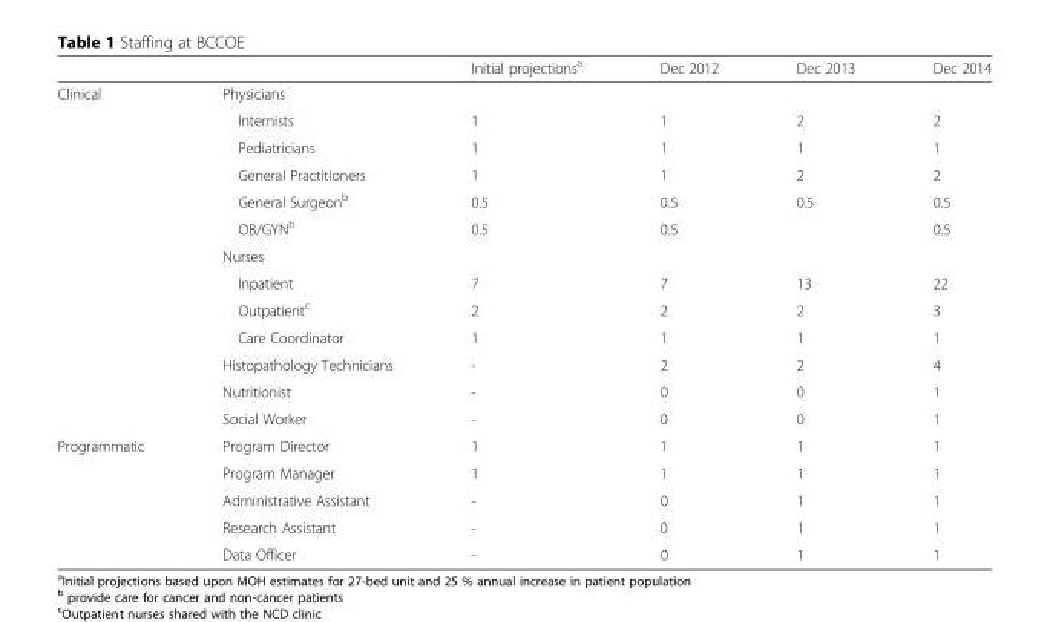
<table><thead><tr><td></td><td></td><td>Initial projections<sup>a</sup></td><td>Dec 2012</td><td>Dec 2013</td><td>Dec 2014</td></tr></thead><tbody><tr><td rowspan="13">Clinical</td><td>Physicians</td><td></td><td></td><td></td><td></td></tr><tr><td>Internists</td><td>1</td><td>1</td><td>2</td><td>2</td></tr><tr><td>Pediatricians</td><td>1</td><td>1</td><td>1</td><td>1</td></tr><tr><td>General Practitioners</td><td>1</td><td>1</td><td>2</td><td>2</td></tr><tr><td>General Surgeon<sup>b</sup></td><td>0.5</td><td>0.5</td><td>0.5</td><td>0.5</td></tr><tr><td>OB/GYN<sup>b</sup></td><td>0.5</td><td>0.5</td><td></td><td>0.5</td></tr><tr><td>Nurses</td><td></td><td></td><td></td><td></td></tr><tr><td>Inpatient</td><td>7</td><td>7</td><td>13</td><td>22</td></tr><tr><td>Outpatient<sup>c</sup></td><td>2</td><td>2</td><td>2</td><td>3</td></tr><tr><td>Care Coordinator</td><td>1</td><td>1</td><td>1</td><td>1</td></tr><tr><td>Histopathology Technicians</td><td>-</td><td>2</td><td>2</td><td>4</td></tr><tr><td>Nutritionist</td><td>-</td><td>0</td><td>0</td><td>1</td></tr><tr><td>Social Worker</td><td>-</td><td>0</td><td>0</td><td>1</td></tr><tr><td rowspan="5">Programmatic</td><td>Program Director</td><td>1</td><td>1</td><td>1</td><td>1</td></tr><tr><td>Program Manager</td><td>1</td><td>1</td><td>1</td><td>1</td></tr><tr><td>Administrative Assistant</td><td>-</td><td>0</td><td>1</td><td>1</td></tr><tr><td>Research Assistant</td><td>-</td><td>0</td><td>1</td><td>1</td></tr><tr><td>Data Officer</td><td>-</td><td>0</td><td>1</td><td>1</td></tr></tbody></table>